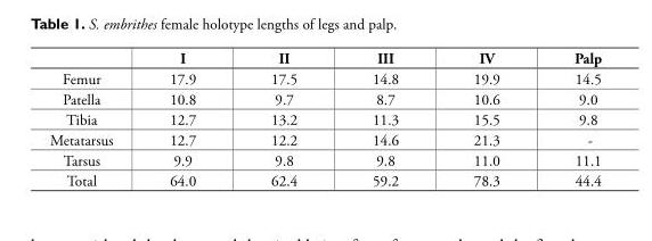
<table><thead><tr><td></td><td>I</td><td>II</td><td>III</td><td>IV</td><td>Palp</td></tr></thead><tbody><tr><td>Femur</td><td>17.9</td><td>17.5</td><td>14.8</td><td>19.9</td><td>14.5</td></tr><tr><td>Patella</td><td>10.8</td><td>9.7</td><td>8.7</td><td>10.6</td><td>9.0</td></tr><tr><td>Tibia</td><td>12.7</td><td>13.2</td><td>11.3</td><td>15.5</td><td>9.8</td></tr><tr><td>Metatarsus</td><td>12.7</td><td>12.2</td><td>14.6</td><td>21.3</td><td>-</td></tr><tr><td>Tarsus</td><td>9.9</td><td>9.8</td><td>9.8</td><td>11.0</td><td>11.1</td></tr><tr><td>Total</td><td>64.0</td><td>62.4</td><td>59.2</td><td>78.3</td><td>44.4</td></tr></tbody></table>